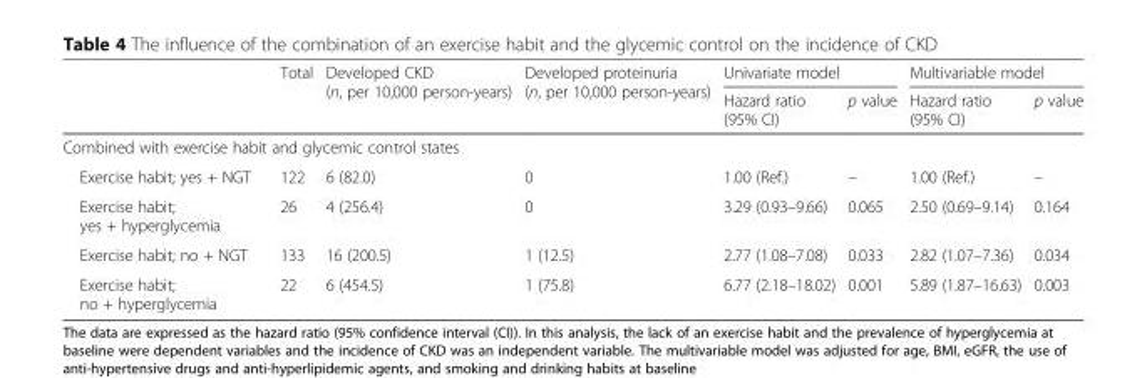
<table><thead><tr><td rowspan="2"></td><td rowspan="2">Total</td><td rowspan="2">Developed CKD (n, per 10,000 person-years)</td><td rowspan="2">Developed proteinuria (n, per 10,000 person-years)</td><td colspan="2">Univariate model</td><td colspan="2">Multivariable model</td></tr><tr><td>Hazard ratio (95% CI)</td><td>p value</td><td>Hazard ratio (95% CI)</td><td>p value</td></tr></thead><tbody><tr><td colspan="8">Combined with exercise habit and glycemic control states</td></tr><tr><td>Exercise habit; yes + NGT</td><td>122</td><td>6 (82.0)</td><td>0</td><td>1.00 (Ref.)</td><td>–</td><td>1.00 (Ref.)</td><td>–</td></tr><tr><td>Exercise habit; yes + hyperglycemia</td><td>26</td><td>4 (256.4)</td><td>0</td><td>3.29 (0.93–9.66)</td><td>0.065</td><td>2.50 (0.69–9.14)</td><td>0.164</td></tr><tr><td>Exercise habit; no + NGT</td><td>133</td><td>16 (200.5)</td><td>1 (12.5)</td><td>2.77 (1.08–7.08)</td><td>0.033</td><td>2.82 (1.07–7.36)</td><td>0.034</td></tr><tr><td>Exercise habit; no + hyperglycemia</td><td>22</td><td>6 (454.5)</td><td>1 (75.8)</td><td>6.77 (2.18–18.02)</td><td>0.001</td><td>5.89 (1.87–16.63)</td><td>0.003</td></tr></tbody></table>